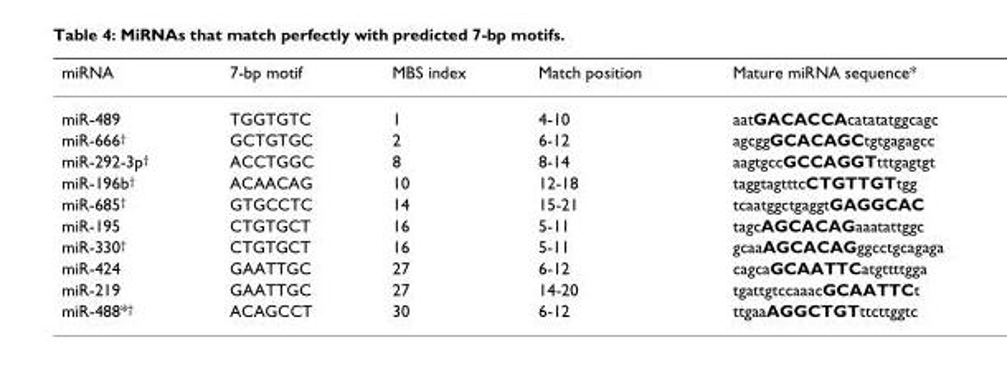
<table><thead><tr><td>miRNA</td><td>7-bp motif</td><td>MBS index</td><td>Match position</td><td>Mature miRNA sequence*</td></tr></thead><tbody><tr><td>miR-489</td><td>TGGTGTC</td><td>1</td><td>4-10</td><td>aatGACACCAcatatatggcagc</td></tr><tr><td>miR-666<sup>†</sup></td><td>GCTGTGC</td><td>2</td><td>6-12</td><td>agcggGCACAGCtgtgagagcc</td></tr><tr><td>miR-292-3p<sup>†</sup></td><td>ACCTGGC</td><td>8</td><td>8-14</td><td>aagtgccGCCAGGTtttgagtgt</td></tr><tr><td>miR-196b<sup>†</sup></td><td>ACAACAG</td><td>10</td><td>12-18</td><td>taggtagtttcCTGTTGTtgg</td></tr><tr><td>miR-685<sup>†</sup></td><td>GTGCCTC</td><td>14</td><td>15-21</td><td>tcaatggctgaggtGAGGCAC</td></tr><tr><td>miR-195</td><td>CTGTGCT</td><td>16</td><td>5-11</td><td>tagcAGCACAGaaatattggc</td></tr><tr><td>miR-330<sup>†</sup></td><td>CTGTGCT</td><td>16</td><td>5-11</td><td>gcaaAGCACAGggcctgcagaga</td></tr><tr><td>miR-424</td><td>GAATTGC</td><td>27</td><td>6-12</td><td>cagcaGCAATTCatgttttgga</td></tr><tr><td>miR-219</td><td>GAATTGC</td><td>27</td><td>14-20</td><td>tgattgtccaaacGCAATTCt</td></tr><tr><td>miR-488*<sup>†</sup></td><td>ACAGCCT</td><td>30</td><td>6-12</td><td>ttgaaAGGCTGTttcttggtc</td></tr></tbody></table>